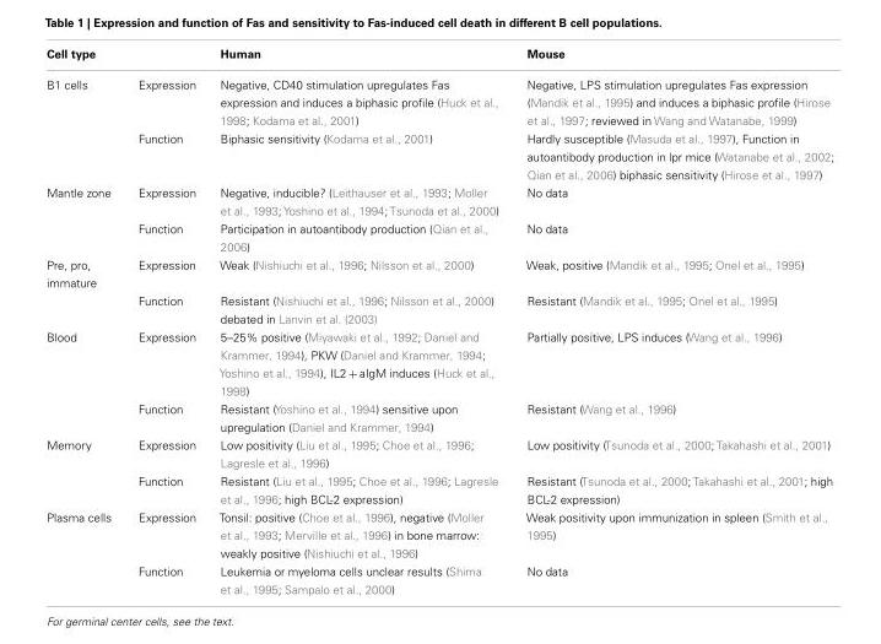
<table><thead><tr><td>Cell type</td><td></td><td>Human</td><td>Mouse</td></tr></thead><tbody><tr><td rowspan="2">B1 cells</td><td>Expression</td><td>Negative, CD40 stimulation upregulates Fas expression and induces a biphasic profile (Huck et al., 1998; Kodama et al., 2001)</td><td>Negative, LPS stimulation upregulates Fas expression (Mandik et al., 1995) and induces a biphasic profile (Hirose et al., 1997; reviewed in Wang and Watanabe, 1999)</td></tr><tr><td>Function</td><td>Biphasic sensitivity (Kodama et al., 2001)</td><td>Hardly susceptible (Masuda et al., 1997), Function in autoantibody production in lpr mice (Watanabe et al., 2002; Qian et al., 2006) biphasic sensitivity (Hirose et al., 1997)</td></tr><tr><td rowspan="2">Mantle zone</td><td>Expression</td><td>Negative, inducible? (Leithauser et al., 1993; Moller et al., 1993; Yoshino et al., 1994; Tsunoda et al., 2000)</td><td>No data</td></tr><tr><td>Function</td><td>Participation in autoantibody production (Qian et al., 2006)</td><td>No data</td></tr><tr><td rowspan="2">Pre, pro, immature</td><td>Expression</td><td>Weak (Nishiuchi et al., 1996; Nilsson et al., 2000)</td><td>Weak, positive (Mandik et al., 1995; Onel et al., 1995)</td></tr><tr><td>Function</td><td>Resistant (Nishiuchi et al., 1996; Nilsson et al., 2000) debated in Lanvin et al. (2003)</td><td>Resistant (Mandik et al., 1995; Onel et al., 1995)</td></tr><tr><td rowspan="2">Blood</td><td>Expression</td><td>5–25% positive (Miyawaki et al., 1992; Daniel and Krammer, 1994), PKW (Daniel and Krammer, 1994; Yoshino et al., 1994), IL2 + aIgM induces (Huck et al., 1998)</td><td>Partially positive, LPS induces (Wang et al., 1996)</td></tr><tr><td>Function</td><td>Resistant (Yoshino et al., 1994) sensitive upon upregulation (Daniel and Krammer, 1994)</td><td>Resistant (Wang et al., 1996)</td></tr><tr><td rowspan="2">Memory</td><td>Expression</td><td>Low positivity (Liu et al., 1995; Choe et al., 1996; Lagresle et al., 1996)</td><td>Low positivity (Tsunoda et al., 2000; Takahashi et al., 2001)</td></tr><tr><td>Function</td><td>Resistant (Liu et al., 1995; Choe et al., 1996; Lagresle et al., 1996; high BCL-2 expression)</td><td>Resistant (Tsunoda et al., 2000; Takahashi et al., 2001; high BCL-2 expression)</td></tr><tr><td rowspan="2">Plasma cells</td><td>Expression</td><td>Tonsil: positive (Choe et al., 1996), negative (Moller et al., 1993; Merville et al., 1996) in bone marrow: weakly positive (Nishiuchi et al., 1996)</td><td>Weak positivity upon immunization in spleen (Smith et al., 1995)</td></tr><tr><td>Function</td><td>Leukemia or myeloma cells unclear results (Shima et al., 1995; Sampalo et al., 2000)</td><td>No data</td></tr></tbody></table>